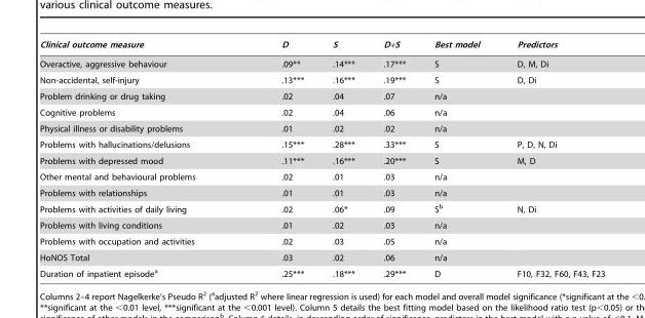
<table><thead><tr><td>Clinical outcome measure</td><td>D</td><td>S</td><td>D+S</td><td>Best model</td><td>Predictors</td></tr></thead><tbody><tr><td>Overactive, aggressive behaviour</td><td>.09**</td><td>.14***</td><td>.17***</td><td>S</td><td>D, M, Di</td></tr><tr><td>Non-accidental, self-injury</td><td>.13***</td><td>.16***</td><td>.19***</td><td>S</td><td>D, Di</td></tr><tr><td>Problem drinking or drug taking</td><td>.02</td><td>.04</td><td>.07</td><td>n/a</td><td></td></tr><tr><td>Cognitive problems</td><td>.02</td><td>.04</td><td>.06</td><td>n/a</td><td></td></tr><tr><td>Physical illness or disability problems</td><td>.01</td><td>.02</td><td>.02</td><td>n/a</td><td></td></tr><tr><td>Problems with hallucinations/delusions</td><td>.15***</td><td>.28***</td><td>.33***</td><td>S</td><td>P, D, N, Di</td></tr><tr><td>Problems with depressed mood</td><td>.11***</td><td>.16***</td><td>.20***</td><td>S</td><td>M, D</td></tr><tr><td>Other mental and behavioural problems</td><td>.02</td><td>.01</td><td>.03</td><td>n/a</td><td></td></tr><tr><td>Problems with relationships</td><td>.01</td><td>.01</td><td>.03</td><td>n/a</td><td></td></tr><tr><td>Problems with activities of daily living</td><td>.02</td><td>.06*</td><td>.09</td><td>S<sup>b</sup></td><td>N, Di</td></tr><tr><td>Problems with living conditions</td><td>.01</td><td>.02</td><td>.03</td><td>n/a</td><td></td></tr><tr><td>Problems with occupation and activities</td><td>.02</td><td>.03</td><td>.05</td><td>n/a</td><td></td></tr><tr><td>HoNOS Total</td><td>.03</td><td>.02</td><td>.06</td><td>n/a</td><td></td></tr><tr><td>Duration of inpatient episode<sup>a</sup></td><td>.25***</td><td>.18***</td><td>.29***</td><td>D</td><td>F10, F32, F60, F43, F23</td></tr></tbody></table>